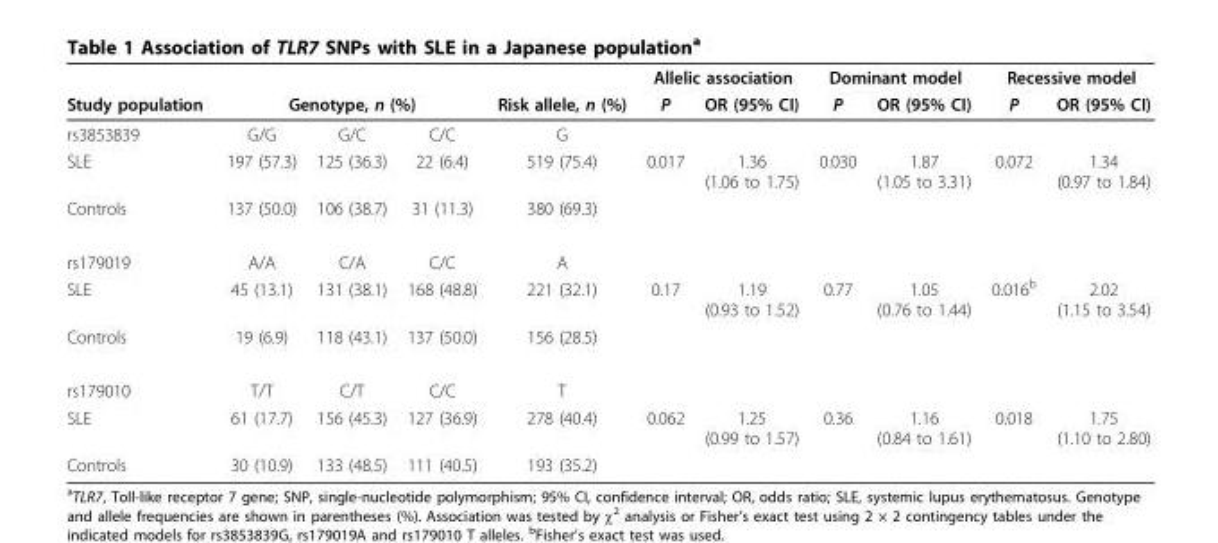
<table><thead><tr><td rowspan="2">Study population</td><td></td><td></td><td></td><td rowspan="2">Risk allele, n (%)</td><td colspan="2">Allelic association</td><td colspan="2">Dominant model</td><td colspan="2">Recessive model</td></tr><tr><td colspan="3">Genotype, n (%)</td><td>P</td><td>OR (95% CI)</td><td>P</td><td>OR (95% CI)</td><td>P</td><td>OR (95% CI)</td></tr></thead><tbody><tr><td>rs3853839</td><td>G/G</td><td>G/C</td><td>C/C</td><td>G</td><td></td><td></td><td></td><td></td><td></td><td></td></tr><tr><td>SLE</td><td>197 (57.3)</td><td>125 (36.3)</td><td>22 (6.4)</td><td>519 (75.4)</td><td>0.017</td><td>1.36 (1.06 to 1.75)</td><td>0.030</td><td>1.87 (1.05 to 3.31)</td><td>0.072</td><td>1.34 (0.97 to 1.84)</td></tr><tr><td>Controls</td><td>137 (50.0)</td><td>106 (38.7)</td><td>31 (11.3)</td><td>380 (69.3)</td><td></td><td></td><td></td><td></td><td></td><td></td></tr><tr><td>rs179019</td><td>A/A</td><td>C/A</td><td>C/C</td><td>A</td><td></td><td></td><td></td><td></td><td></td><td></td></tr><tr><td>SLE</td><td>45 (13.1)</td><td>131 (38.1)</td><td>168 (48.8)</td><td>221 (32.1)</td><td>0.17</td><td>1.19 (0.93 to 1.52)</td><td>0.77</td><td>1.05 (0.76 to 1.44)</td><td>0.016<sup>b</sup></td><td>2.02 (1.15 to 3.54)</td></tr><tr><td>Controls</td><td>19 (6.9)</td><td>118 (43.1)</td><td>137 (50.0)</td><td>156 (28.5)</td><td></td><td></td><td></td><td></td><td></td><td></td></tr><tr><td>rs179010</td><td>T/T</td><td>C/T</td><td>C/C</td><td>T</td><td></td><td></td><td></td><td></td><td></td><td></td></tr><tr><td>SLE</td><td>61 (17.7)</td><td>156 (45.3)</td><td>127 (36.9)</td><td>278 (40.4)</td><td>0.062</td><td>1.25 (0.99 to 1.57)</td><td>0.36</td><td>1.16 (0.84 to 1.61)</td><td>0.018</td><td>1.75 (1.10 to 2.80)</td></tr><tr><td>Controls</td><td>30 (10.9)</td><td>133 (48.5)</td><td>111 (40.5)</td><td>193 (35.2)</td><td></td><td></td><td></td><td></td><td></td><td></td></tr></tbody></table>